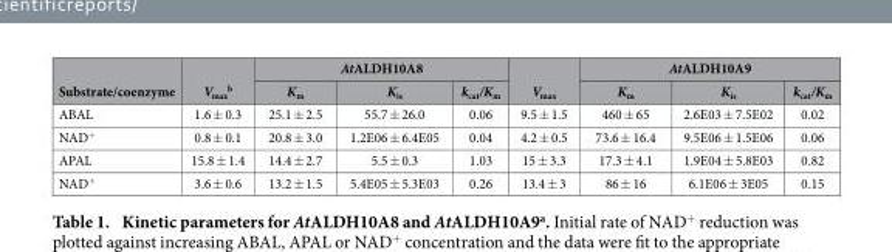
<table><thead><tr><td rowspan="2">Substrate/coenzyme</td><td rowspan="2">V<sub>max</sub> <sup>b</sup></td><td colspan="3">AtALDH10A8</td><td rowspan="2">V<sub>max</sub></td><td colspan="3">AtALDH10A9</td></tr><tr><td>K<sub>m</sub></td><td>K<sub>is</sub></td><td>k<sub>cat</sub>/K<sub>m</sub></td><td>K<sub>m</sub></td><td>K<sub>is</sub></td><td>k<sub>cat</sub>/K<sub>m</sub></td></tr></thead><tbody><tr><td>ABAL</td><td>1.6 ± 0.3</td><td>25.1 ± 2.5</td><td>55.7 ± 26.0</td><td>0.06</td><td>9.5 ± 1.5</td><td>460 ± 65</td><td>2.6E03 ± 7.5E02</td><td>0.02</td></tr><tr><td>NAD<sup>+</sup></td><td>0.8 ± 0.1</td><td>20.8 ± 3.0</td><td>1.2E06 ± 6.4E05</td><td>0.04</td><td>4.2 ± 0.5</td><td>73.6 ± 16.4</td><td>9.5E06 ± 1.5E06</td><td>0.06</td></tr><tr><td>APAL</td><td>15.8 ± 1.4</td><td>14.4 ± 2.7</td><td>5.5 ± 0.3</td><td>1.03</td><td>15 ± 3.3</td><td>17.3 ± 4.1</td><td>1.9E04 ± 5.8E03</td><td>0.82</td></tr><tr><td>NAD<sup>+</sup></td><td>3.6 ± 0.6</td><td>13.2 ± 1.5</td><td>5.4E05 ± 5.3E03</td><td>0.26</td><td>13.4 ± 3</td><td>86 ± 16</td><td>6.1E06 ± 3E05</td><td>0.15</td></tr></tbody></table>